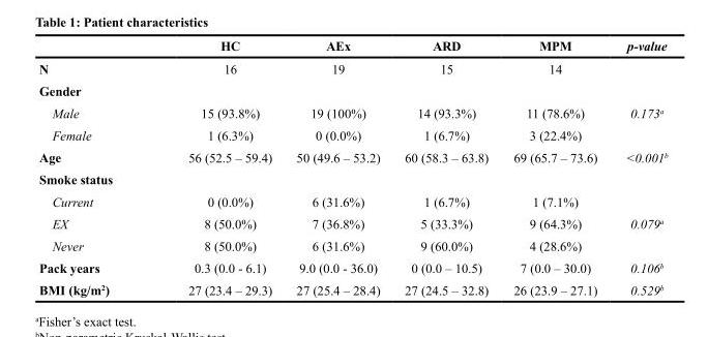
<table><thead><tr><td></td><td>HC</td><td>AEx</td><td>ARD</td><td>MPM</td><td>p-value</td></tr></thead><tbody><tr><td>N</td><td>16</td><td>19</td><td>15</td><td>14</td><td></td></tr><tr><td colspan="6">Gender</td></tr><tr><td>Male</td><td>15 (93.8%)</td><td>19 (100%)</td><td>14 (93.3%)</td><td>11 (78.6%)</td><td>0.173<sup>a</sup></td></tr><tr><td>Female</td><td>1 (6.3%)</td><td>0 (0.0%)</td><td>1 (6.7%)</td><td>3 (22.4%)</td><td></td></tr><tr><td>Age</td><td>56 (52.5 – 59.4)</td><td>50 (49.6 – 53.2)</td><td>60 (58.3 – 63.8)</td><td>69 (65.7 – 73.6)</td><td>&lt;0.001<sup>b</sup></td></tr><tr><td colspan="6">Smoke status</td></tr><tr><td>Current</td><td>0 (0.0%)</td><td>6 (31.6%)</td><td>1 (6.7%)</td><td>1 (7.1%)</td><td></td></tr><tr><td>EX</td><td>8 (50.0%)</td><td>7 (36.8%)</td><td>5 (33.3%)</td><td>9 (64.3%)</td><td>0.079<sup>a</sup></td></tr><tr><td>Never</td><td>8 (50.0%)</td><td>6 (31.6%)</td><td>9 (60.0%)</td><td>4 (28.6%)</td><td></td></tr><tr><td>Pack years</td><td>0.3 (0.0 - 6.1)</td><td>9.0 (0.0 - 36.0)</td><td>0 (0.0 – 10.5)</td><td>7 (0.0 – 30.0)</td><td>0.106<sup>b</sup></td></tr><tr><td>BMI (kg/m<sup>2</sup>)</td><td>27 (23.4 – 29.3)</td><td>27 (25.4 – 28.4)</td><td>27 (24.5 – 32.8)</td><td>26 (23.9 – 27.1)</td><td>0.529<sup>b</sup></td></tr></tbody></table>